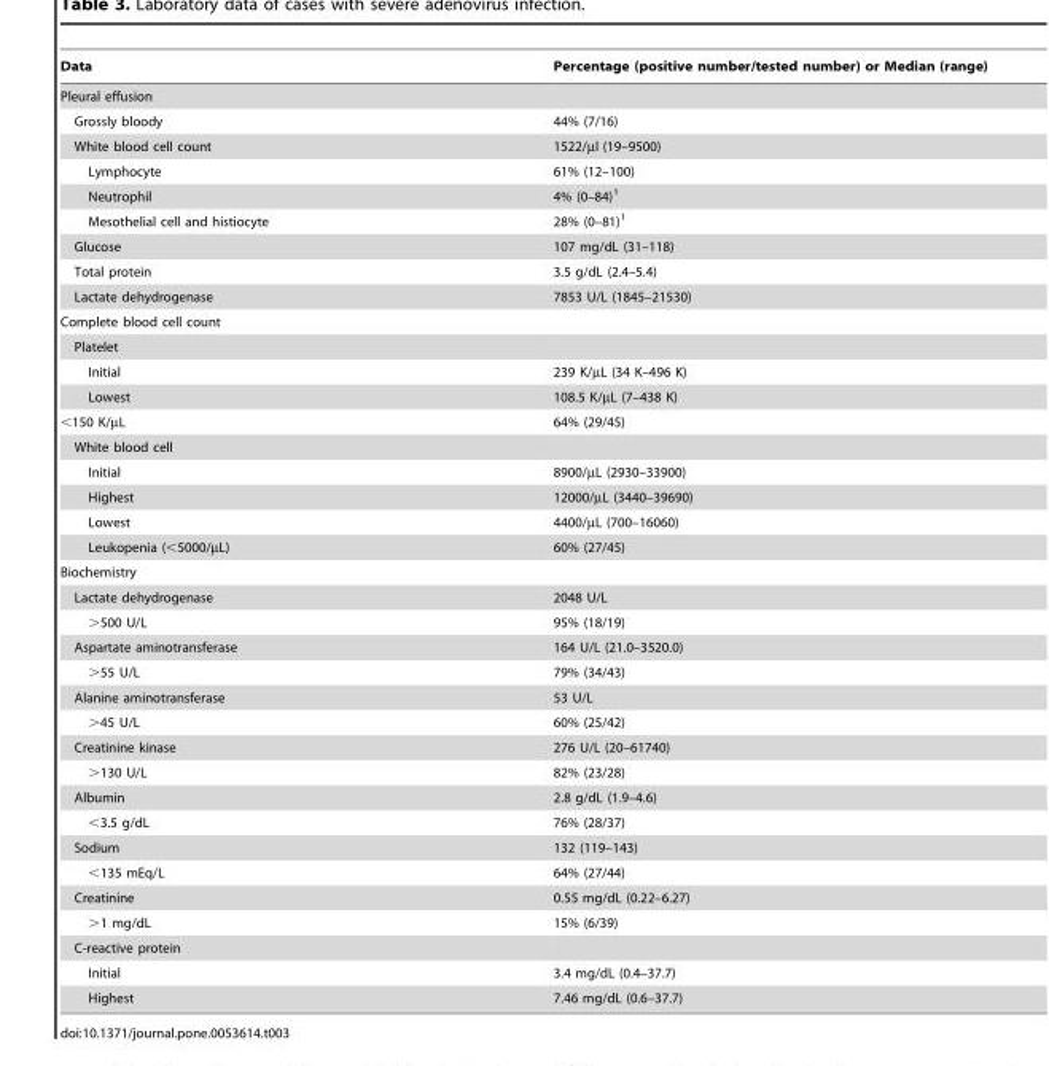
<table><thead><tr><td>Data</td><td>Percentage (positive number/tested number) or Median (range)</td></tr></thead><tbody><tr><td colspan="2">Pleural effusion</td></tr><tr><td>Grossly bloody</td><td>44% (7/16)</td></tr><tr><td>White blood cell count</td><td>1522/µl (19–9500)</td></tr><tr><td>Lymphocyte</td><td>61% (12–100)</td></tr><tr><td>Neutrophil</td><td>4% (0–84)<sup>1</sup></td></tr><tr><td>Mesothelial cell and histiocyte</td><td>28% (0–81)<sup>1</sup></td></tr><tr><td>Glucose</td><td>107 mg/dL (31–118)</td></tr><tr><td>Total protein</td><td>3.5 g/dL (2.4–5.4)</td></tr><tr><td>Lactate dehydrogenase</td><td>7853 U/L (1845–21530)</td></tr><tr><td colspan="2">Complete blood cell count</td></tr><tr><td colspan="2">Platelet</td></tr><tr><td>Initial</td><td>239 K/µL (34 K–496 K)</td></tr><tr><td>Lowest</td><td>108.5 K/µL (7–438 K)</td></tr><tr><td>&lt;150 K/µL</td><td>64% (29/45)</td></tr><tr><td colspan="2">White blood cell</td></tr><tr><td>Initial</td><td>8900/µL (2930–33900)</td></tr><tr><td>Highest</td><td>12000/µL (3440–39690)</td></tr><tr><td>Lowest</td><td>4400/µL (700–16060)</td></tr><tr><td>Leukopenia (&lt;5000/µL)</td><td>60% (27/45)</td></tr><tr><td colspan="2">Biochemistry</td></tr><tr><td>Lactate dehydrogenase</td><td>2048 U/L</td></tr><tr><td>&gt;500 U/L</td><td>95% (18/19)</td></tr><tr><td>Aspartate aminotransferase</td><td>164 U/L (21.0–3520.0)</td></tr><tr><td>&gt;55 U/L</td><td>79% (34/43)</td></tr><tr><td>Alanine aminotransferase</td><td>53 U/L</td></tr><tr><td>&gt;45 U/L</td><td>60% (25/42)</td></tr><tr><td>Creatinine kinase</td><td>276 U/L (20–61740)</td></tr><tr><td>&gt;130 U/L</td><td>82% (23/28)</td></tr><tr><td>Albumin</td><td>2.8 g/dL (1.9–4.6)</td></tr><tr><td>&lt;3.5 g/dL</td><td>76% (28/37)</td></tr><tr><td>Sodium</td><td>132 (119–143)</td></tr><tr><td>&lt;135 mEq/L</td><td>64% (27/44)</td></tr><tr><td>Creatinine</td><td>0.55 mg/dL (0.22–6.27)</td></tr><tr><td>&gt;1 mg/dL</td><td>15% (6/39)</td></tr><tr><td colspan="2">C-reactive protein</td></tr><tr><td>Initial</td><td>3.4 mg/dL (0.4–37.7)</td></tr><tr><td>Highest</td><td>7.46 mg/dL (0.6–37.7)</td></tr></tbody></table>